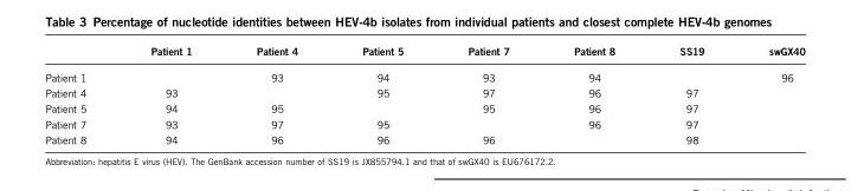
<table><thead><tr><td></td><td>Patient 1</td><td>Patient 4</td><td>Patient 5</td><td>Patient 7</td><td>Patient 8</td><td>SS19</td><td>swGX40</td></tr></thead><tbody><tr><td>Patient 1</td><td></td><td>93</td><td>94</td><td>93</td><td>94</td><td></td><td>96</td></tr><tr><td>Patient 4</td><td>93</td><td></td><td>95</td><td>97</td><td>96</td><td>97</td><td></td></tr><tr><td>Patient 5</td><td>94</td><td>95</td><td></td><td>95</td><td>96</td><td>97</td><td></td></tr><tr><td>Patient 7</td><td>93</td><td>97</td><td>95</td><td></td><td>96</td><td>97</td><td></td></tr><tr><td>Patient 8</td><td>94</td><td>96</td><td>96</td><td>96</td><td></td><td>98</td><td></td></tr></tbody></table>